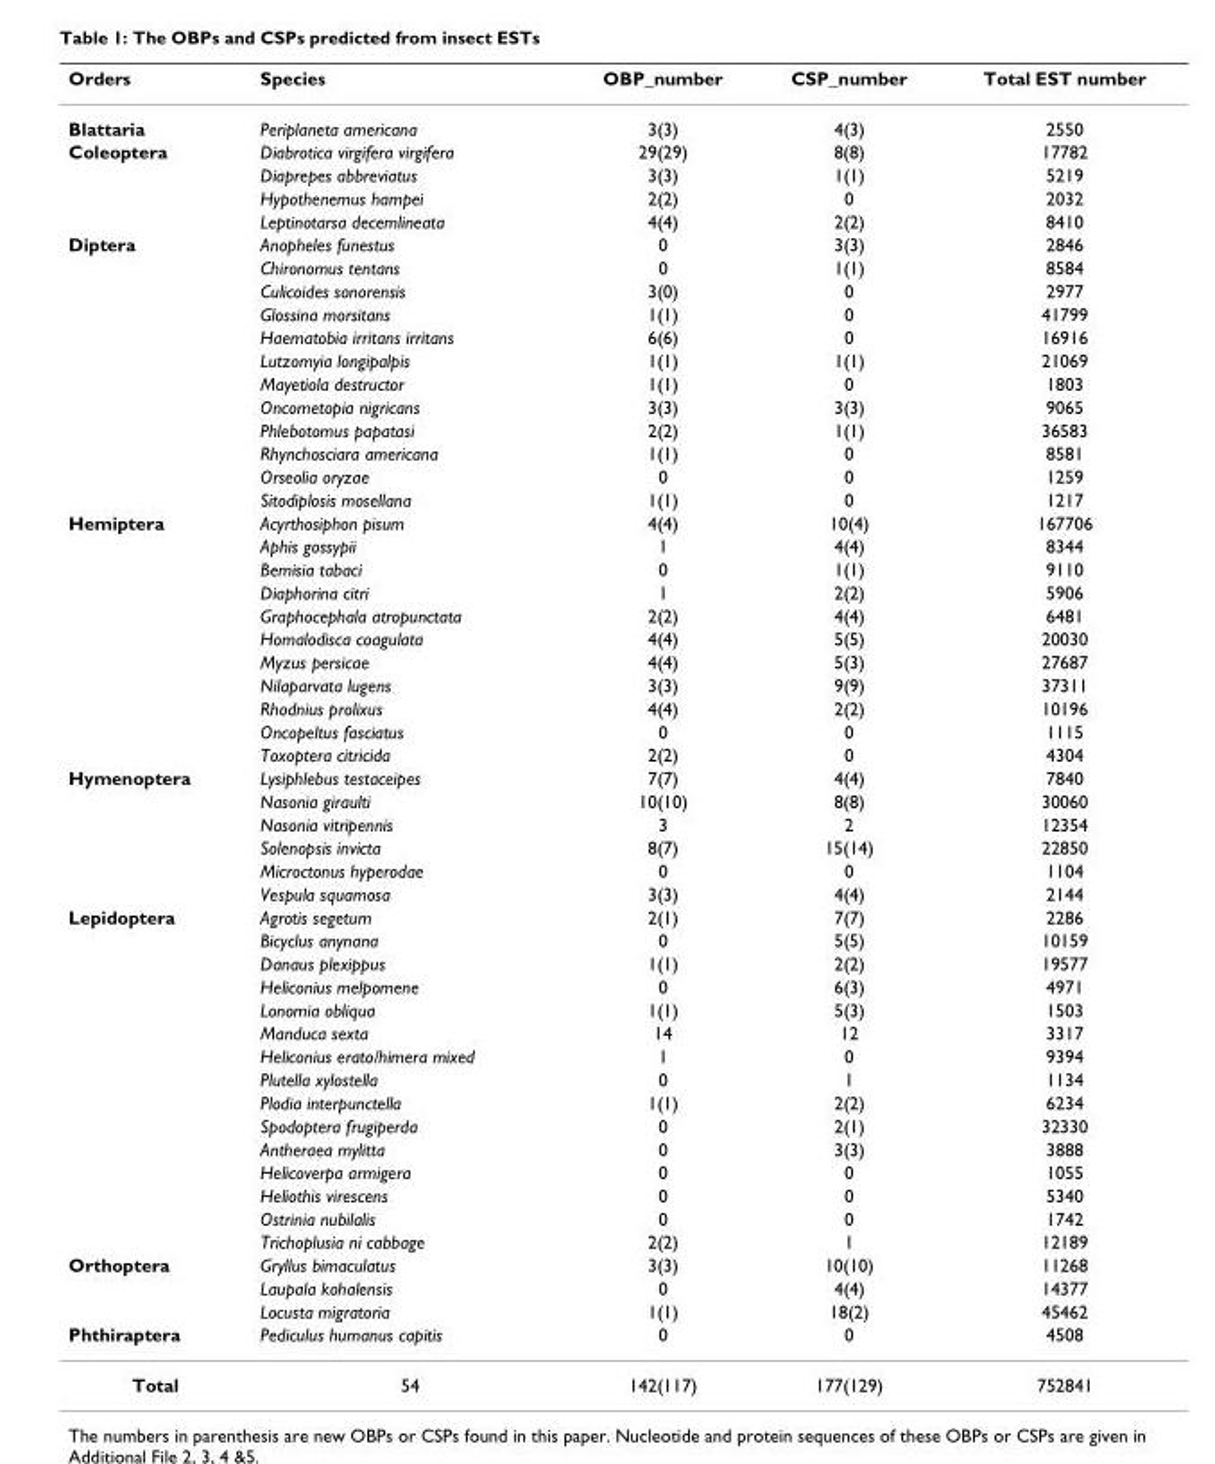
<table><thead><tr><td>Orders</td><td>Species</td><td>OBP_number</td><td>CSP_number</td><td>Total EST number</td></tr></thead><tbody><tr><td>Blattaria</td><td>Periplaneta americana</td><td>3(3)</td><td>4(3)</td><td>2550</td></tr><tr><td rowspan="4">Coleoptera</td><td>Diabrotica virgifera virgifera</td><td>29(29)</td><td>8(8)</td><td>17782</td></tr><tr><td>Diaprepes abbreviatus</td><td>3(3)</td><td>1(1)</td><td>5219</td></tr><tr><td>Hypothenemus hampei</td><td>2(2)</td><td>0</td><td>2032</td></tr><tr><td>Leptinotarsa decemlineata</td><td>4(4)</td><td>2(2)</td><td>8410</td></tr><tr><td rowspan="12">Diptera</td><td>Anopheles funestus</td><td>0</td><td>3(3)</td><td>2846</td></tr><tr><td>Chironomus tentans</td><td>0</td><td>1(1)</td><td>8584</td></tr><tr><td>Culicoides sonorensis</td><td>3(0)</td><td>0</td><td>2977</td></tr><tr><td>Glossina morsitans</td><td>1(1)</td><td>0</td><td>41799</td></tr><tr><td>Haematobia irritans irritans</td><td>6(6)</td><td>0</td><td>16916</td></tr><tr><td>Lutzomyia longipalpis</td><td>1(1)</td><td>1(1)</td><td>21069</td></tr><tr><td>Mayetiola destructor</td><td>1(1)</td><td>0</td><td>1803</td></tr><tr><td>Oncometopia nigricans</td><td>3(3)</td><td>3(3)</td><td>9065</td></tr><tr><td>Phlebotomus papatasi</td><td>2(2)</td><td>1(1)</td><td>36583</td></tr><tr><td>Rhynchosciara americana</td><td>1(1)</td><td>0</td><td>8581</td></tr><tr><td>Orseolia oryzae</td><td>0</td><td>0</td><td>1259</td></tr><tr><td>Sitodiplosis mosellana</td><td>1(1)</td><td>0</td><td>1217</td></tr><tr><td rowspan="11">Hemiptera</td><td>Acyrthosiphon pisum</td><td>4(4)</td><td>10(4)</td><td>167706</td></tr><tr><td>Aphis gossypii</td><td>1</td><td>4(4)</td><td>8344</td></tr><tr><td>Bemisia tabaci</td><td>0</td><td>1(1)</td><td>9110</td></tr><tr><td>Diaphorina citri</td><td>1</td><td>2(2)</td><td>5906</td></tr><tr><td>Graphocephala atropunctata</td><td>2(2)</td><td>4(4)</td><td>6481</td></tr><tr><td>Homalodisca coagulata</td><td>4(4)</td><td>5(5)</td><td>20030</td></tr><tr><td>Myzus persicae</td><td>4(4)</td><td>5(3)</td><td>27687</td></tr><tr><td>Nilaparvata lugens</td><td>3(3)</td><td>9(9)</td><td>37311</td></tr><tr><td>Rhodnius prolixus</td><td>4(4)</td><td>2(2)</td><td>10196</td></tr><tr><td>Oncopeltus fasciatus</td><td>0</td><td>0</td><td>1115</td></tr><tr><td>Toxoptera citricida</td><td>2(2)</td><td>0</td><td>4304</td></tr><tr><td rowspan="6">Hymenoptera</td><td>Lysiphlebus testaceipes</td><td>7(7)</td><td>4(4)</td><td>7840</td></tr><tr><td>Nasonia giraulti</td><td>10(10)</td><td>8(8)</td><td>30060</td></tr><tr><td>Nasonia vitripennis</td><td>3</td><td>2</td><td>12354</td></tr><tr><td>Solenopsis invicta</td><td>8(7)</td><td>15(14)</td><td>22850</td></tr><tr><td>Microctonus hyperodae</td><td>0</td><td>0</td><td>1104</td></tr><tr><td>Vespula squamosa</td><td>3(3)</td><td>4(4)</td><td>2144</td></tr><tr><td rowspan="15">Lepidoptera</td><td>Agrotis segetum</td><td>2(1)</td><td>7(7)</td><td>2286</td></tr><tr><td>Bicyclus anynana</td><td>0</td><td>5(5)</td><td>10159</td></tr><tr><td>Danaus plexippus</td><td>1(1)</td><td>2(2)</td><td>19577</td></tr><tr><td>Heliconius melpomene</td><td>0</td><td>6(3)</td><td>4971</td></tr><tr><td>Lonomia obliqua</td><td>1(1)</td><td>5(3)</td><td>1503</td></tr><tr><td>Manduca sexta</td><td>14</td><td>12</td><td>3317</td></tr><tr><td>Heliconius erato/himera mixed</td><td>1</td><td>0</td><td>9394</td></tr><tr><td>Plutella xylostella</td><td>0</td><td>1</td><td>1134</td></tr><tr><td>Plodia interpunctella</td><td>1(1)</td><td>2(2)</td><td>6234</td></tr><tr><td>Spodoptera frugiperda</td><td>0</td><td>2(1)</td><td>32330</td></tr><tr><td>Antheraea mylitta</td><td>0</td><td>3(3)</td><td>3888</td></tr><tr><td>Helicoverpa armigera</td><td>0</td><td>0</td><td>1055</td></tr><tr><td>Heliothis virescens</td><td>0</td><td>0</td><td>5340</td></tr><tr><td>Ostrinia nubilalis</td><td>0</td><td>0</td><td>1742</td></tr><tr><td>Trichoplusia ni cabbage</td><td>2(2)</td><td>1</td><td>12189</td></tr><tr><td rowspan="3">Orthoptera</td><td>Gryllus bimaculatus</td><td>3(3)</td><td>10(10)</td><td>11268</td></tr><tr><td>Laupala kohalensis</td><td>0</td><td>4(4)</td><td>14377</td></tr><tr><td>Locusta migratoria</td><td>1(1)</td><td>18(2)</td><td>45462</td></tr><tr><td>Phthiraptera</td><td>Pediculus humanus capitis</td><td>0</td><td>0</td><td>4508</td></tr><tr><td>Total</td><td>54</td><td>142(117)</td><td>177(129)</td><td>752841</td></tr></tbody></table>